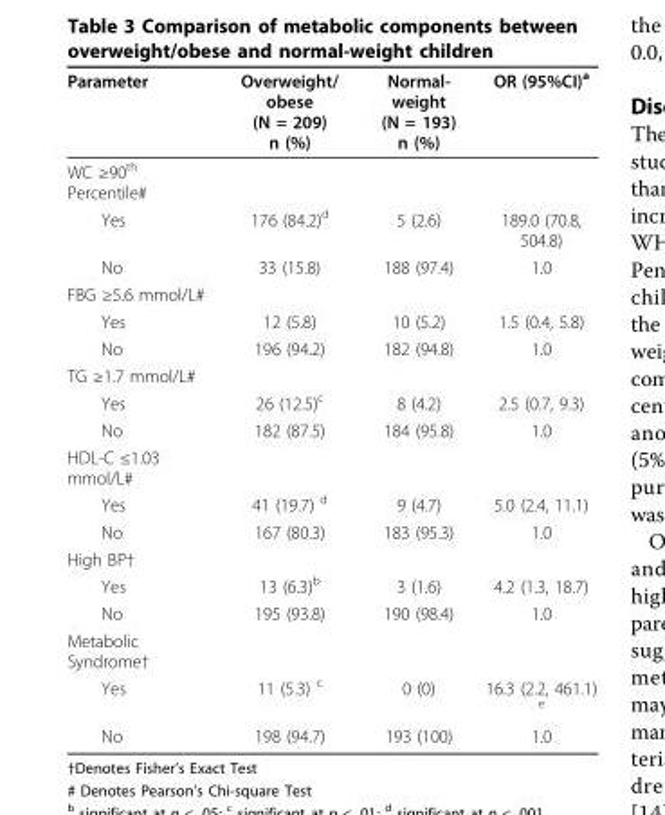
<table><thead><tr><td>Parameter</td><td>Overweight/ obese (N = 209) n (%)</td><td>Normal- weight (N = 193) n (%)</td><td>OR (95%CI)<sup>a</sup></td></tr></thead><tbody><tr><td colspan="4">WC ≥90<sup>th</sup> Percentile#</td></tr><tr><td>Yes</td><td>176 (84.2)<sup>d</sup></td><td>5 (2.6)</td><td>189.0 (70.8, 504.8)</td></tr><tr><td>No</td><td>33 (15.8)</td><td>188 (97.4)</td><td>1.0</td></tr><tr><td colspan="4">FBG ≥5.6 mmol/L#</td></tr><tr><td>Yes</td><td>12 (5.8)</td><td>10 (5.2)</td><td>1.5 (0.4, 5.8)</td></tr><tr><td>No</td><td>196 (94.2)</td><td>182 (94.8)</td><td>1.0</td></tr><tr><td colspan="4">TG ≥1.7 mmol/L#</td></tr><tr><td>Yes</td><td>26 (12.5)<sup>c</sup></td><td>8 (4.2)</td><td>2.5 (0.7, 9.3)</td></tr><tr><td>No</td><td>182 (87.5)</td><td>184 (95.8)</td><td>1.0</td></tr><tr><td colspan="4">HDL-C ≤1.03 mmol/L#</td></tr><tr><td>Yes</td><td>41 (19.7) <sup>d</sup></td><td>9 (4.7)</td><td>5.0 (2.4, 11.1)</td></tr><tr><td>No</td><td>167 (80.3)</td><td>183 (95.3)</td><td>1.0</td></tr><tr><td colspan="4">High BP†</td></tr><tr><td>Yes</td><td>13 (6.3)<sup>b</sup></td><td>3 (1.6)</td><td>4.2 (1.3, 18.7)</td></tr><tr><td>No</td><td>195 (93.8)</td><td>190 (98.4)</td><td>1.0</td></tr><tr><td colspan="4">Metabolic Syndrome†</td></tr><tr><td>Yes</td><td>11 (5.3) <sup>c</sup></td><td>0 (0)</td><td>16.3 (2.2, 461.1) <sup>e</sup></td></tr><tr><td>No</td><td>198 (94.7)</td><td>193 (100)</td><td>1.0</td></tr></tbody></table>